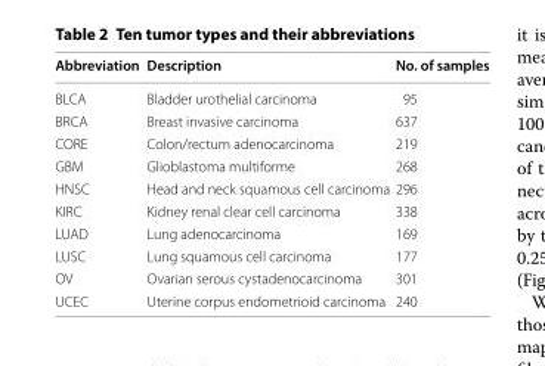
<table><thead><tr><td>Abbreviation</td><td>Description</td><td>No. of samples</td></tr></thead><tbody><tr><td>BLCA</td><td>Bladder urothelial carcinoma</td><td>95</td></tr><tr><td>BRCA</td><td>Breast invasive carcinoma</td><td>637</td></tr><tr><td>CORE</td><td>Colon/rectum adenocarcinoma</td><td>219</td></tr><tr><td>GBM</td><td>Glioblastoma multiforme</td><td>268</td></tr><tr><td>HNSC</td><td>Head and neck squamous cell carcinoma</td><td>296</td></tr><tr><td>KIRC</td><td>Kidney renal clear cell carcinoma</td><td>338</td></tr><tr><td>LUAD</td><td>Lung adenocarcinoma</td><td>169</td></tr><tr><td>LUSC</td><td>Lung squamous cell carcinoma</td><td>177</td></tr><tr><td>OV</td><td>Ovarian serous cystadenocarcinoma</td><td>301</td></tr><tr><td>UCEC</td><td>Uterine corpus endometrioid carcinoma</td><td>240</td></tr></tbody></table>